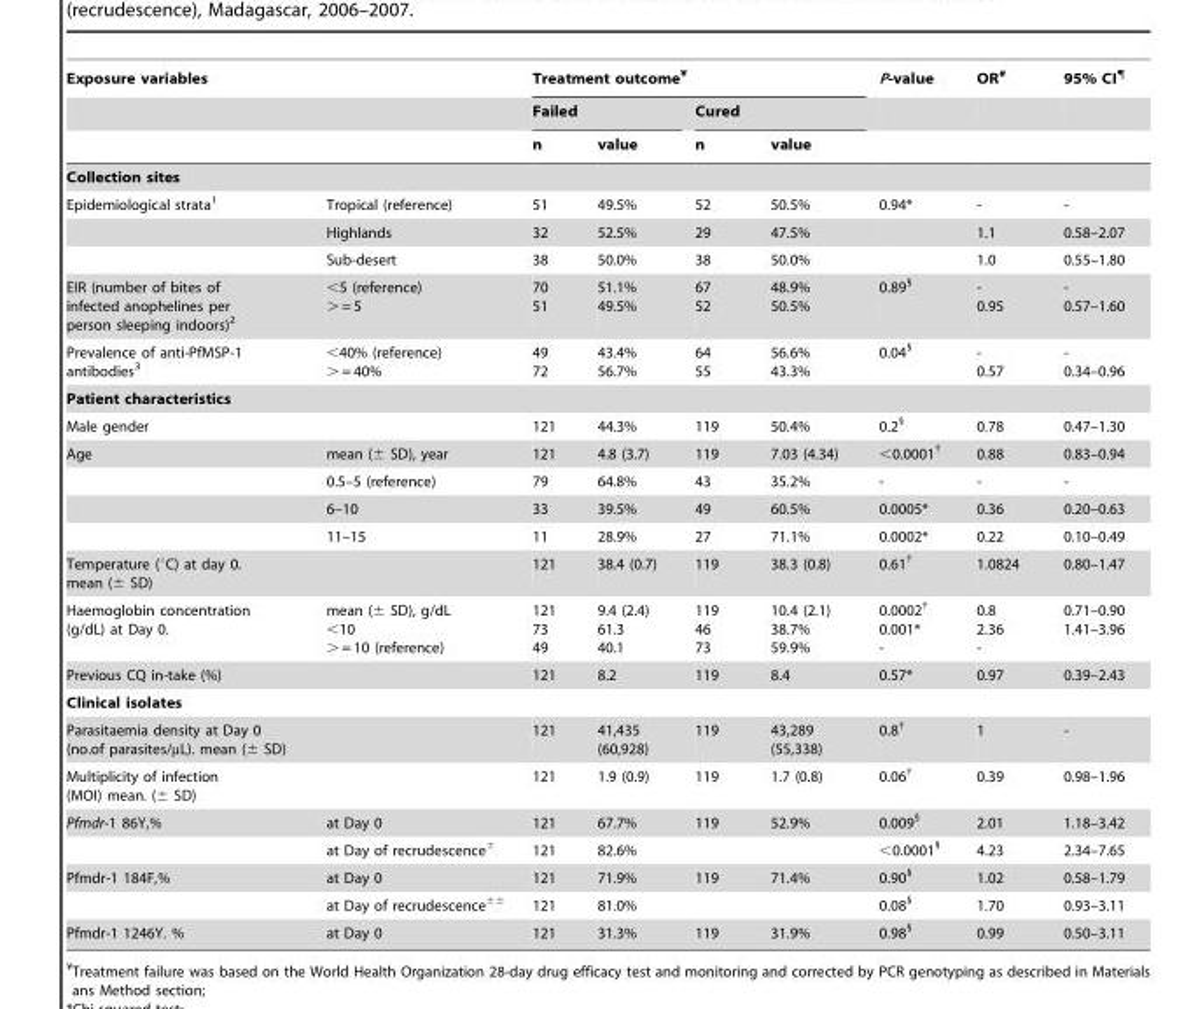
<table><thead><tr><td colspan="2">Exposure variables</td><td colspan="4">Treatment outcome¥</td><td rowspan="3">P-value</td><td rowspan="3">OR#</td><td rowspan="3">95% CI¶</td></tr><tr><td rowspan="2"></td><td rowspan="2"></td><td colspan="2">Failed</td><td colspan="2">Cured</td></tr><tr><td>n</td><td>value</td><td>n</td><td>value</td></tr></thead><tbody><tr><td colspan="9">Collection sites</td></tr><tr><td rowspan="3">Epidemiological strata<sup>1</sup></td><td>Tropical (reference)</td><td>51</td><td>49.5%</td><td>52</td><td>50.5%</td><td>0.94*</td><td>-</td><td>-</td></tr><tr><td>Highlands</td><td>32</td><td>52.5%</td><td>29</td><td>47.5%</td><td></td><td>1.1</td><td>0.58–2.07</td></tr><tr><td>Sub-desert</td><td>38</td><td>50.0%</td><td>38</td><td>50.0%</td><td></td><td>1.0</td><td>0.55–1.80</td></tr><tr><td>EIR (number of bites of infected anophelines per person sleeping indoors)<sup>2</sup></td><td>&lt;5 (reference) &gt; = 5</td><td>70 51</td><td>51.1% 49.5%</td><td>67 52</td><td>48.9% 50.5%</td><td>0.89§</td><td>- 0.95</td><td>- 0.57–1.60</td></tr><tr><td>Prevalence of anti-PfMSP-1 antibodies<sup>3</sup></td><td>&lt;40% (reference) &gt; = 40%</td><td>49 72</td><td>43.4% 56.7%</td><td>64 55</td><td>56.6% 43.3%</td><td>0.04§</td><td>- 0.57</td><td>- 0.34–0.96</td></tr><tr><td colspan="9">Patient characteristics</td></tr><tr><td colspan="2">Male gender</td><td>121</td><td>44.3%</td><td>119</td><td>50.4%</td><td>0.2§</td><td>0.78</td><td>0.47–1.30</td></tr><tr><td rowspan="4">Age</td><td>mean (± SD), year</td><td>121</td><td>4.8 (3.7)</td><td>119</td><td>7.03 (4.34)</td><td>&lt;0.0001†</td><td>0.88</td><td>0.83–0.94</td></tr><tr><td>0.5–5 (reference)</td><td>79</td><td>64.8%</td><td>43</td><td>35.2%</td><td>-</td><td>-</td><td>-</td></tr><tr><td>6–10</td><td>33</td><td>39.5%</td><td>49</td><td>60.5%</td><td>0.0005*</td><td>0.36</td><td>0.20–0.63</td></tr><tr><td>11–15</td><td>11</td><td>28.9%</td><td>27</td><td>71.1%</td><td>0.0002*</td><td>0.22</td><td>0.10–0.49</td></tr><tr><td colspan="2">Temperature (°C) at day 0. mean (± SD)</td><td>121</td><td>38.4 (0.7)</td><td>119</td><td>38.3 (0.8)</td><td>0.61†</td><td>1.0824</td><td>0.80–1.47</td></tr><tr><td>Haemoglobin concentration (g/dL) at Day 0.</td><td>mean (± SD), g/dL &lt;10 &gt; = 10 (reference)</td><td>121 73 49</td><td>9.4 (2.4) 61.3 40.1</td><td>119 46 73</td><td>10.4 (2.1) 38.7% 59.9%</td><td>0.0002† 0.001* -</td><td>0.8 2.36 -</td><td>0.71–0.90 1.41–3.96</td></tr><tr><td colspan="2">Previous CQ in-take (%)</td><td>121</td><td>8.2</td><td>119</td><td>8.4</td><td>0.57*</td><td>0.97</td><td>0.39–2.43</td></tr><tr><td colspan="9">Clinical isolates</td></tr><tr><td colspan="2">Parasitaemia density at Day 0 (no.of parasites/µL). mean (± SD)</td><td>121</td><td>41,435 (60,928)</td><td>119</td><td>43,289 (55,338)</td><td>0.8†</td><td>1</td><td>-</td></tr><tr><td colspan="2">Multiplicity of infection (MOI) mean. (± SD)</td><td>121</td><td>1.9 (0.9)</td><td>119</td><td>1.7 (0.8)</td><td>0.06†</td><td>0.39</td><td>0.98–1.96</td></tr><tr><td rowspan="2">Pfmdr-1 86Y,%</td><td>at Day 0</td><td>121</td><td>67.7%</td><td>119</td><td>52.9%</td><td>0.009§</td><td>2.01</td><td>1.18–3.42</td></tr><tr><td>at Day of recrudescence±</td><td>121</td><td>82.6%</td><td></td><td></td><td>&lt;0.0001§</td><td>4.23</td><td>2.34–7.65</td></tr><tr><td rowspan="2">Pfmdr-1 184F,%</td><td>at Day 0</td><td>121</td><td>71.9%</td><td>119</td><td>71.4%</td><td>0.90§</td><td>1.02</td><td>0.58–1.79</td></tr><tr><td>at Day of recrudescence±±</td><td>121</td><td>81.0%</td><td></td><td></td><td>0.08§</td><td>1.70</td><td>0.93–3.11</td></tr><tr><td>Pfmdr-1 1246Y. %</td><td>at Day 0</td><td>121</td><td>31.3%</td><td>119</td><td>31.9%</td><td>0.98§</td><td>0.99</td><td>0.50–3.11</td></tr></tbody></table>